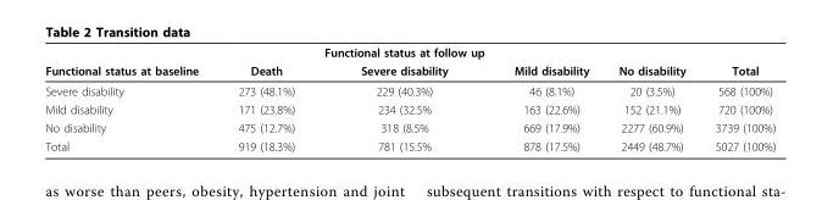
<table><thead><tr><td rowspan="2">Functional status at baseline</td><td rowspan="2">Death</td><td rowspan="2">Functional status at follow up Severe disability</td><td rowspan="2">Mild disability</td><td rowspan="2">No disability</td><td rowspan="2">Total</td></tr><tr></tr></thead><tbody><tr><td>Severe disability</td><td>273 (48.1%)</td><td>229 (40.3%)</td><td>46 (8.1%)</td><td>20 (3.5%)</td><td>568 (100%)</td></tr><tr><td>Mild disability</td><td>171 (23.8%)</td><td>234 (32.5%</td><td>163 (22.6%)</td><td>152 (21.1%)</td><td>720 (100%)</td></tr><tr><td>No disability</td><td>475 (12.7%)</td><td>318 (8.5%</td><td>669 (17.9%)</td><td>2277 (60.9%)</td><td>3739 (100%)</td></tr><tr><td>Total</td><td>919 (18.3%)</td><td>781 (15.5%</td><td>878 (17.5%)</td><td>2449 (48.7%)</td><td>5027 (100%)</td></tr></tbody></table>